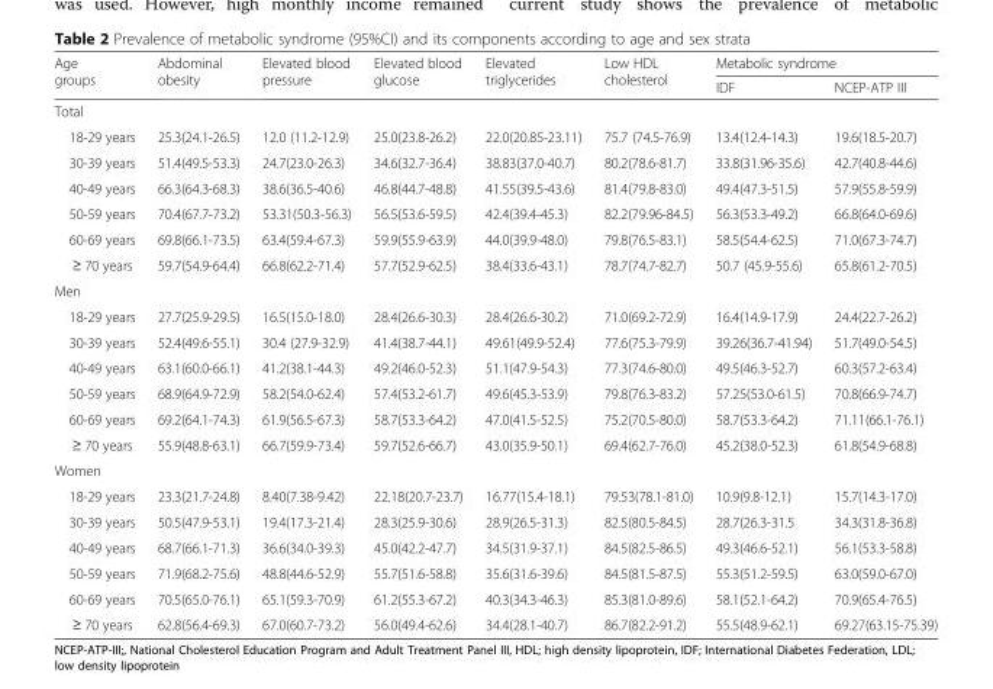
<table><thead><tr><td rowspan="2">Age groups</td><td rowspan="2">Abdominal obesity</td><td rowspan="2">Elevated blood pressure</td><td rowspan="2">Elevated blood glucose</td><td rowspan="2">Elevated triglycerides</td><td rowspan="2">Low HDL cholesterol</td><td colspan="2">Metabolic syndrome</td></tr><tr><td>IDF</td><td>NCEP-ATP III</td></tr></thead><tbody><tr><td colspan="8">Total</td></tr><tr><td>18-29 years</td><td>25.3(24.1-26.5)</td><td>12.0 (11.2-12.9)</td><td>25.0(23.8-26.2)</td><td>22.0(20.85-23.11)</td><td>75.7 (74.5-76.9)</td><td>13.4(12.4-14.3)</td><td>19.6(18.5-20.7)</td></tr><tr><td>30-39 years</td><td>51.4(49.5-53.3)</td><td>24.7(23.0-26.3)</td><td>34.6(32.7-36.4)</td><td>38.83(37.0-40.7)</td><td>80.2(78.6-81.7)</td><td>33.8(31.96-35.6)</td><td>42.7(40.8-44.6)</td></tr><tr><td>40-49 years</td><td>66.3(64.3-68.3)</td><td>38.6(36.5-40.6)</td><td>46.8(44.7-48.8)</td><td>41.55(39.5-43.6)</td><td>81.4(79.8-83.0)</td><td>49.4(47.3-51.5)</td><td>57.9(55.8-59.9)</td></tr><tr><td>50-59 years</td><td>70.4(67.7-73.2)</td><td>53.31(50.3-56.3)</td><td>56.5(53.6-59.5)</td><td>42.4(39.4-45.3)</td><td>82.2(79.96-84.5)</td><td>56.3(53.3-49.2)</td><td>66.8(64.0-69.6)</td></tr><tr><td>60-69 years</td><td>69.8(66.1-73.5)</td><td>63.4(59.4-67.3)</td><td>59.9(55.9-63.9)</td><td>44.0(39.9-48.0)</td><td>79.8(76.5-83.1)</td><td>58.5(54.4-62.5)</td><td>71.0(67.3-74.7)</td></tr><tr><td>≥ 70 years</td><td>59.7(54.9-64.4)</td><td>66.8(62.2-71.4)</td><td>57.7(52.9-62.5)</td><td>38.4(33.6-43.1)</td><td>78.7(74.7-82.7)</td><td>50.7 (45.9-55.6)</td><td>65.8(61.2-70.5)</td></tr><tr><td colspan="8">Men</td></tr><tr><td>18-29 years</td><td>27.7(25.9-29.5)</td><td>16.5(15.0-18.0)</td><td>28.4(26.6-30.3)</td><td>28.4(26.6-30.2)</td><td>71.0(69.2-72.9)</td><td>16.4(14.9-17.9)</td><td>24.4(22.7-26.2)</td></tr><tr><td>30-39 years</td><td>52.4(49.6-55.1)</td><td>30.4 (27.9-32.9)</td><td>41.4(38.7-44.1)</td><td>49.61(49.9-52.4)</td><td>77.6(75.3-79.9)</td><td>39.26(36.7-41.94)</td><td>51.7(49.0-54.5)</td></tr><tr><td>40-49 years</td><td>63.1(60.0-66.1)</td><td>41.2(38.1-44.3)</td><td>49.2(46.0-52.3)</td><td>51.1(47.9-54.3)</td><td>77.3(74.6-80.0)</td><td>49.5(46.3-52.7)</td><td>60.3(57.2-63.4)</td></tr><tr><td>50-59 years</td><td>68.9(64.9-72.9)</td><td>58.2(54.0-62.4)</td><td>57.4(53.2-61.7)</td><td>49.6(45.3-53.9)</td><td>79.8(76.3-83.2)</td><td>57.25(53.0-61.5)</td><td>70.8(66.9-74.7)</td></tr><tr><td>60-69 years</td><td>69.2(64.1-74.3)</td><td>61.9(56.5-67.3)</td><td>58.7(53.3-64.2)</td><td>47.0(41.5-52.5)</td><td>75.2(70.5-80.0)</td><td>58.7(53.3-64.2)</td><td>71.11(66.1-76.1)</td></tr><tr><td>≥ 70 years</td><td>55.9(48.8-63.1)</td><td>66.7(59.9-73.4)</td><td>59.7(52.6-66.7)</td><td>43.0(35.9-50.1)</td><td>69.4(62.7-76.0)</td><td>45.2(38.0-52.3)</td><td>61.8(54.9-68.8)</td></tr><tr><td colspan="8">Women</td></tr><tr><td>18-29 years</td><td>23.3(21.7-24.8)</td><td>8.40(7.38-9.42)</td><td>22.18(20.7-23.7)</td><td>16.77(15.4-18.1)</td><td>79.53(78.1-81.0)</td><td>10.9(9.8-12.1)</td><td>15.7(14.3-17.0)</td></tr><tr><td>30-39 years</td><td>50.5(47.9-53.1)</td><td>19.4(17.3-21.4)</td><td>28.3(25.9-30.6)</td><td>28.9(26.5-31.3)</td><td>82.5(80.5-84.5)</td><td>28.7(26.3-31.5</td><td>34.3(31.8-36.8)</td></tr><tr><td>40-49 years</td><td>68.7(66.1-71.3)</td><td>36.6(34.0-39.3)</td><td>45.0(42.2-47.7)</td><td>34.5(31.9-37.1)</td><td>84.5(82.5-86.5)</td><td>49.3(46.6-52.1)</td><td>56.1(53.3-58.8)</td></tr><tr><td>50-59 years</td><td>71.9(68.2-75.6)</td><td>48.8(44.6-52.9)</td><td>55.7(51.6-58.8)</td><td>35.6(31.6-39.6)</td><td>84.5(81.5-87.5)</td><td>55.3(51.2-59.5)</td><td>63.0(59.0-67.0)</td></tr><tr><td>60-69 years</td><td>70.5(65.0-76.1)</td><td>65.1(59.3-70.9)</td><td>61.2(55.3-67.2)</td><td>40.3(34.3-46.3)</td><td>85.3(81.0-89.6)</td><td>58.1(52.1-64.2)</td><td>70.9(65.4-76.5)</td></tr><tr><td>≥ 70 years</td><td>62.8(56.4-69.3)</td><td>67.0(60.7-73.2)</td><td>56.0(49.4-62.6)</td><td>34.4(28.1-40.7)</td><td>86.7(82.2-91.2)</td><td>55.5(48.9-62.1)</td><td>69.27(63.15-75.39)</td></tr></tbody></table>